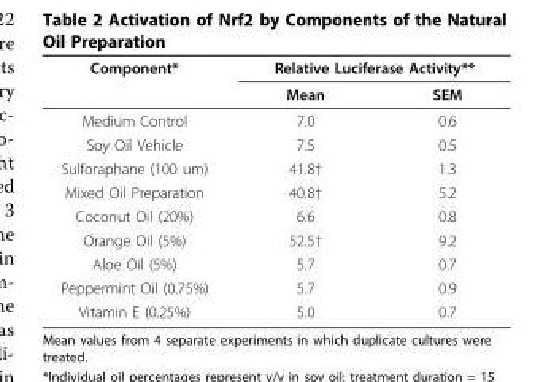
<table><thead><tr><td rowspan="2">Component*</td><td colspan="2">Relative Luciferase Activity**</td></tr><tr><td>Mean</td><td>SEM</td></tr></thead><tbody><tr><td>Medium Control</td><td>7.0</td><td>0.6</td></tr><tr><td>Soy Oil Vehicle</td><td>7.5</td><td>0.5</td></tr><tr><td>Sulforaphane (100 um)</td><td>41.8†</td><td>1.3</td></tr><tr><td>Mixed Oil Preparation</td><td>40.8†</td><td>5.2</td></tr><tr><td>Coconut Oil (20%)</td><td>6.6</td><td>0.8</td></tr><tr><td>Orange Oil (5%)</td><td>52.5†</td><td>9.2</td></tr><tr><td>Aloe Oil (5%)</td><td>5.7</td><td>0.7</td></tr><tr><td>Peppermint Oil (0.75%)</td><td>5.7</td><td>0.9</td></tr><tr><td>Vitamin E (0.25%)</td><td>5.0</td><td>0.7</td></tr></tbody></table>